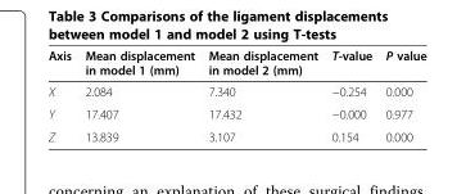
<table><thead><tr><td>Axis</td><td>Mean displacement in model 1 (mm)</td><td>Mean displacement in model 2 (mm)</td><td>T-value</td><td>P value</td></tr></thead><tbody><tr><td>X</td><td>2.084</td><td>7.340</td><td>−0.254</td><td>0.000</td></tr><tr><td>Y</td><td>17.407</td><td>17.432</td><td>−0.000</td><td>0.977</td></tr><tr><td>Z</td><td>13.839</td><td>3.107</td><td>0.154</td><td>0.000</td></tr></tbody></table>